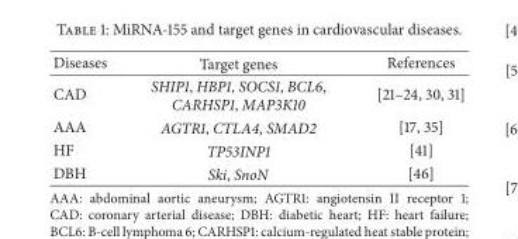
<table><thead><tr><td>Diseases</td><td>Target genes</td><td>References</td></tr></thead><tbody><tr><td>CAD</td><td>SHIP1, HBP1, SOCS1, BCL6, CARHSP1, MAP3K10</td><td>[21–24, 30, 31]</td></tr><tr><td>AAA</td><td>AGTR1, CTLA4, SMAD2</td><td>[17, 35]</td></tr><tr><td>HF</td><td>TP53INP1</td><td>[41]</td></tr><tr><td>DBH</td><td>Ski, SnoN</td><td>[46]</td></tr></tbody></table>